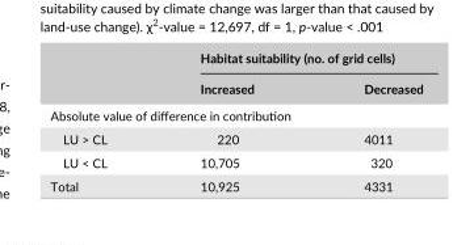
<table><thead><tr><td rowspan="2"></td><td colspan="2">Habitat suitability (no. of grid cells)</td></tr><tr><td>Increased</td><td>Decreased</td></tr></thead><tbody><tr><td colspan="3">Absolute value of difference in contribution</td></tr><tr><td>LU &gt; CL</td><td>220</td><td>4011</td></tr><tr><td>LU &lt; CL</td><td>10,705</td><td>320</td></tr><tr><td>Total</td><td>10,925</td><td>4331</td></tr></tbody></table>